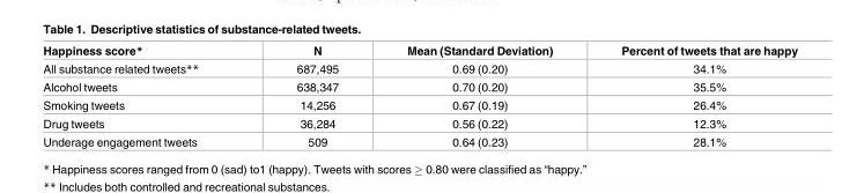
<table><thead><tr><td>Happiness score*</td><td>N</td><td>Mean (Standard Deviation)</td><td>Percent of tweets that are happy</td></tr></thead><tbody><tr><td>All substance related tweets**</td><td>687,495</td><td>0.69 (0.20)</td><td>34.1%</td></tr><tr><td>Alcohol tweets</td><td>638,347</td><td>0.70 (0.20)</td><td>35.5%</td></tr><tr><td>Smoking tweets</td><td>14,256</td><td>0.67 (0.19)</td><td>26.4%</td></tr><tr><td>Drug tweets</td><td>36,284</td><td>0.56 (0.22)</td><td>12.3%</td></tr><tr><td>Underage engagement tweets</td><td>509</td><td>0.64 (0.23)</td><td>28.1%</td></tr></tbody></table>